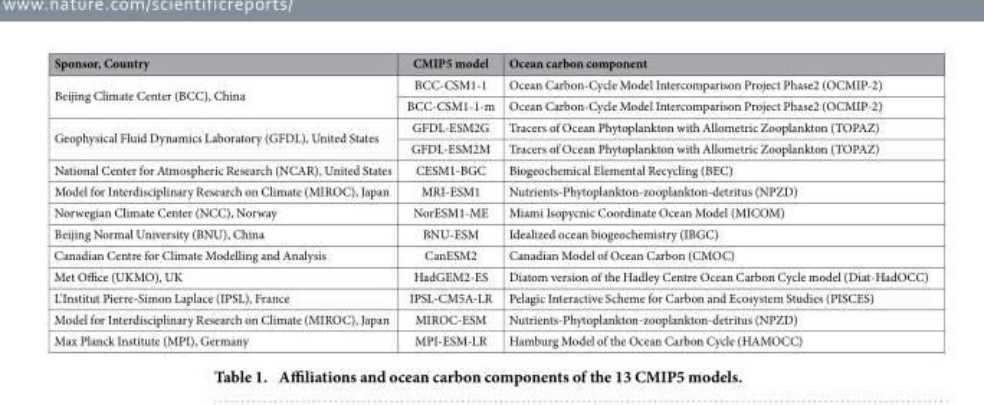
<table><thead><tr><td>Sponsor, Country</td><td>CMIP5 model</td><td>Ocean carbon component</td></tr></thead><tbody><tr><td rowspan="2">Beijing Climate Center (BCC), China</td><td>BCC-CSM1-1</td><td>Ocean Carbon-Cycle Model Intercomparison Project Phase2 (OCMIP-2)</td></tr><tr><td>BCC-CSM1-1-m</td><td>Ocean Carbon-Cycle Model Intercomparison Project Phase2 (OCMIP-2)</td></tr><tr><td rowspan="2">Geophysical Fluid Dynamics Laboratory (GFDL), United States</td><td>GFDL-ESM2G</td><td>Tracers of Ocean Phytoplankton with Allometric Zooplankton (TOPAZ)</td></tr><tr><td>GFDL-ESM2M</td><td>Tracers of Ocean Phytoplankton with Allometric Zooplankton (TOPAZ)</td></tr><tr><td>National Center for Atmospheric Research (NCAR), United States</td><td>CESM1-BGC</td><td>Biogeochemical Elemental Recycling (BEC)</td></tr><tr><td>Model for Interdisciplinary Research on Climate (MIROC), Japan</td><td>MRI-ESM1</td><td>Nutrients-Phytoplankton-zooplankton-detritus (NPZD)</td></tr><tr><td>Norwegian Climate Center (NCC), Norway</td><td>NorESM1-ME</td><td>Miami Isopycnic Coordinate Ocean Model (MICOM)</td></tr><tr><td>Beijing Normal University (BNU), China</td><td>BNU-ESM</td><td>Idealized ocean biogeochemistry (IBGC)</td></tr><tr><td>Canadian Centre for Climate Modelling and Analysis</td><td>CanESM2</td><td>Canadian Model of Ocean Carbon (CMOC)</td></tr><tr><td>Met Office (UKMO), UK</td><td>HadGEM2-ES</td><td>Diatom version of the Hadley Centre Ocean Carbon Cycle model (Diat-HadOCC)</td></tr><tr><td>L’Institut Pierre-Simon Laplace (IPSL), France</td><td>IPSL-CM5A-LR</td><td>Pelagic Interactive Scheme for Carbon and Ecosystem Studies (PISCES)</td></tr><tr><td>Model for Interdisciplinary Research on Climate (MIROC), Japan</td><td>MIROC-ESM</td><td>Nutrients-Phytoplankton-zooplankton-detritus (NPZD)</td></tr><tr><td>Max Planck Institute (MPI), Germany</td><td>MPI-ESM-LR</td><td>Hamburg Model of the Ocean Carbon Cycle (HAMOCC)</td></tr></tbody></table>